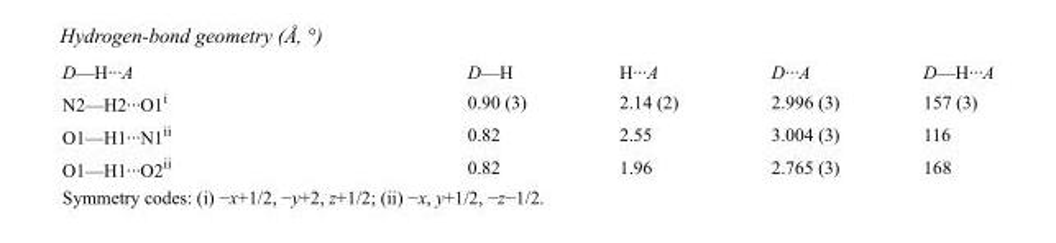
<table><tbody><tr><td>D—H···A</td><td>D—H</td><td>H···A</td><td>D···A</td><td>D—H···A</td></tr><tr><td>N2—H2···O1<sup>i</sup></td><td>0.90 (3)</td><td>2.14 (2)</td><td>2.996 (3)</td><td>157 (3)</td></tr><tr><td>O1—H1···N1<sup>ii</sup></td><td>0.82</td><td>2.55</td><td>3.004 (3)</td><td>116</td></tr><tr><td>O1—H1···O2<sup>ii</sup></td><td>0.82</td><td>1.96</td><td>2.765 (3)</td><td>168</td></tr></tbody></table>